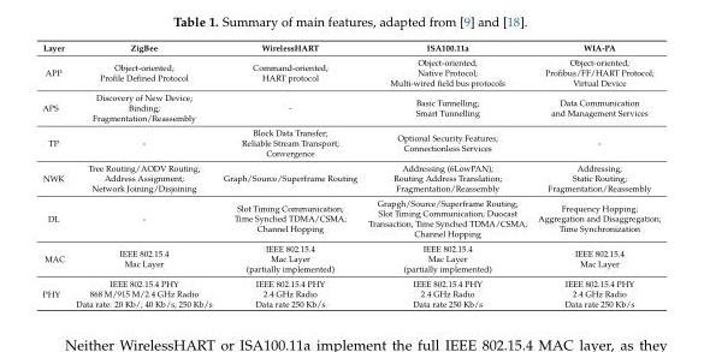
<table><thead><tr><td>Layer</td><td>ZigBee</td><td>WirelessHART</td><td>ISA100.11a</td><td>WIA-PA</td></tr></thead><tbody><tr><td>APP</td><td>Object-oriented; Profile Defined Protocol</td><td>Command-oriented; HART protocol</td><td>Object-oriented; Native Protocol; Multi-wired field bus protocols</td><td>Object-oriented; Profibus/FF/HART Protocol; Virtual Device</td></tr><tr><td>APS</td><td>Discovery of New Device; Binding; Fragmentation/Reassembly</td><td>-</td><td>Basic Tunnelling; Smart Tunnelling</td><td>Data Communication and Management Services</td></tr><tr><td>TP</td><td>-</td><td>Block Data Transfer; Reliable Stream Transport; Convergence</td><td>Optional Security Features; Connectionless Services</td><td>-</td></tr><tr><td>NWK</td><td>Tree Routing/AODV Routing; Address Assignment; Network Joining/Disjoining</td><td>Graph/Source/Superframe Routing</td><td>Addressing (6LowPAN); Routing Address Translation; Fragmentation/Reassembly</td><td>Addressing; Static Routing; Fragmentation/Reassembly</td></tr><tr><td>DL</td><td>-</td><td>Slot Timing Communication; Time Synched TDMA/CSMA; Channel Hopping</td><td>Grapgh/Source/Superframe Routing; Slot Timing Communication; Duocast Transaction; Time Synched TDMA/CSMA; Channel Hopping</td><td>Frequency Hopping; Aggregation and Disaggregation; Time Synchronization</td></tr><tr><td>MAC</td><td>IEEE 802.15.4 Mac Layer</td><td>IEEE 802.15.4 Mac Layer (partially implemented)</td><td>IEEE 802.15.4 Mac Layer (partially implemented)</td><td>IEEE 802.15.4 Mac Layer</td></tr><tr><td>PHY</td><td>IEEE 802.15.4 PHY 868 M/915 M/2.4 GHz Radio Data rate: 20 Kb/; 40 Kb/s; 250 Kb/s</td><td>IEEE 802.15.4 PHY 2.4 GHz Radio Data rate 250 Kb/s</td><td>IEEE 802.15.4 PHY 2.4 GHz Radio Data rate 250 Kb/s</td><td>IEEE 802.15.4 PHY 2.4 GHz Radio Data rate 250 Kb/s</td></tr></tbody></table>